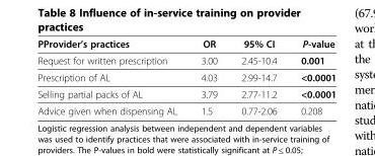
<table><thead><tr><td>PProvider’s practices</td><td>OR</td><td>95% CI</td><td>P-value</td></tr></thead><tbody><tr><td>Request for written prescription</td><td>3.00</td><td>2.45-10.4</td><td>0.001</td></tr><tr><td>Prescription of AL</td><td>4.03</td><td>2.99-14.7</td><td>&lt;0.0001</td></tr><tr><td>Selling partial packs of AL</td><td>3.79</td><td>2.77-11.2</td><td>&lt;0.0001</td></tr><tr><td>Advice given when dispensing AL</td><td>1.5</td><td>0.77-2.06</td><td>0.208</td></tr></tbody></table>